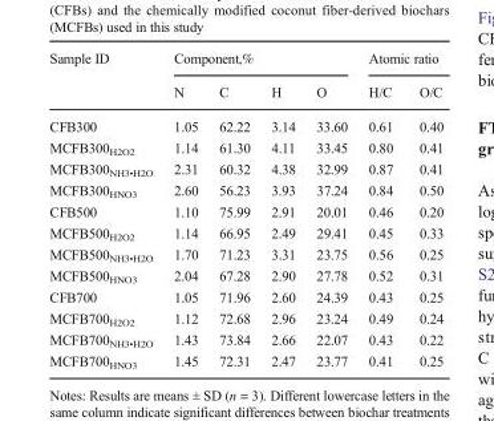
<table><thead><tr><td rowspan="2">Sample ID</td><td colspan="4">Component,%</td><td colspan="2">Atomic ratio</td></tr><tr><td>N</td><td>C</td><td>H</td><td>O</td><td>H/C</td><td>O/C</td></tr></thead><tbody><tr><td>CFB300</td><td>1.05</td><td>62.22</td><td>3.14</td><td>33.60</td><td>0.61</td><td>0.40</td></tr><tr><td>MCFB300<sub>H2O2</sub></td><td>1.14</td><td>61.30</td><td>4.11</td><td>33.45</td><td>0.80</td><td>0.41</td></tr><tr><td>MCFB300<sub>NH3•H2O</sub></td><td>2.31</td><td>60.32</td><td>4.38</td><td>32.99</td><td>0.87</td><td>0.41</td></tr><tr><td>MCFB300<sub>HNO3</sub></td><td>2.60</td><td>56.23</td><td>3.93</td><td>37.24</td><td>0.84</td><td>0.50</td></tr><tr><td>CFB500</td><td>1.10</td><td>75.99</td><td>2.91</td><td>20.01</td><td>0.46</td><td>0.20</td></tr><tr><td>MCFB500<sub>H2O2</sub></td><td>1.14</td><td>66.95</td><td>2.49</td><td>29.41</td><td>0.45</td><td>0.33</td></tr><tr><td>MCFB500<sub>NH3•H2O</sub></td><td>1.70</td><td>71.23</td><td>3.31</td><td>23.75</td><td>0.56</td><td>0.25</td></tr><tr><td>MCFB500<sub>HNO3</sub></td><td>2.04</td><td>67.28</td><td>2.90</td><td>27.78</td><td>0.52</td><td>0.31</td></tr><tr><td>CFB700</td><td>1.05</td><td>71.96</td><td>2.60</td><td>24.39</td><td>0.43</td><td>0.25</td></tr><tr><td>MCFB700<sub>H2O2</sub></td><td>1.12</td><td>72.68</td><td>2.96</td><td>23.24</td><td>0.49</td><td>0.24</td></tr><tr><td>MCFB700<sub>NH3•H2O</sub></td><td>1.43</td><td>73.84</td><td>2.66</td><td>22.07</td><td>0.43</td><td>0.22</td></tr><tr><td>MCFB700<sub>HNO3</sub></td><td>1.45</td><td>72.31</td><td>2.47</td><td>23.77</td><td>0.41</td><td>0.25</td></tr></tbody></table>